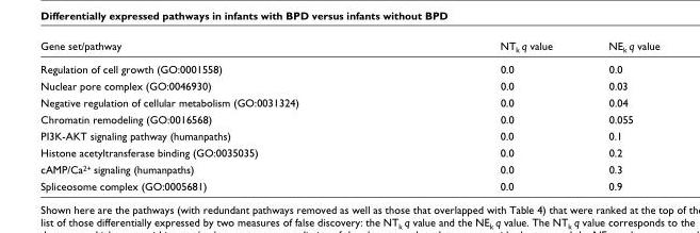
<table><thead><tr><td>Gene set/pathway</td><td>NT<sub>k</sub> q value</td><td>NE<sub>k</sub> q value</td></tr></thead><tbody><tr><td>Regulation of cell growth (GO:0001558)</td><td>0.0</td><td>0.0</td></tr><tr><td>Nuclear pore complex (GO:0046930)</td><td>0.0</td><td>0.03</td></tr><tr><td>Negative regulation of cellular metabolism (GO:0031324)</td><td>0.0</td><td>0.04</td></tr><tr><td>Chromatin remodeling (GO:0016568)</td><td>0.0</td><td>0.055</td></tr><tr><td>PI3K-AKT signaling pathway (humanpaths)</td><td>0.0</td><td>0.1</td></tr><tr><td>Histone acetyltransferase binding (GO:0035035)</td><td>0.0</td><td>0.2</td></tr><tr><td>cAMP/Ca<sup>2+</sup> signaling (humanpaths)</td><td>0.0</td><td>0.3</td></tr><tr><td>Spliceosome complex (GO:0005681)</td><td>0.0</td><td>0.9</td></tr></tbody></table>